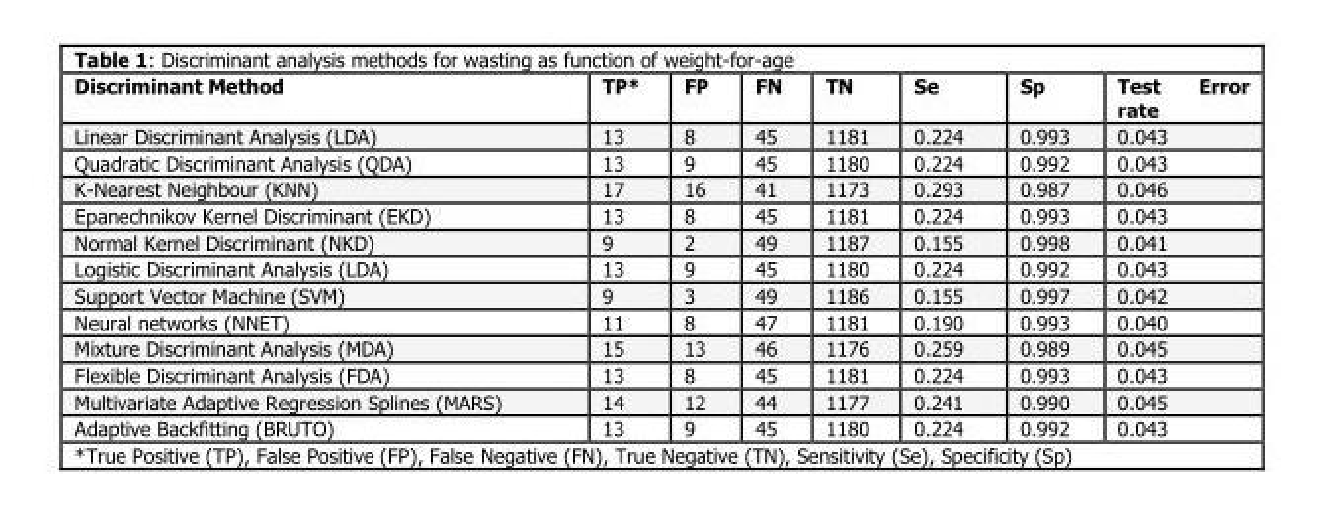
<table><thead><tr><td>Discriminant Method</td><td>TP*</td><td>FP</td><td>FN</td><td>TN</td><td>Se</td><td>Sp</td><td>Test Error rate</td></tr></thead><tbody><tr><td>Linear Discriminant Analysis (LDA)</td><td>13</td><td>8</td><td>45</td><td>1181</td><td>0.224</td><td>0.993</td><td>0.043</td></tr><tr><td>Quadratic Discriminant Analysis (QDA)</td><td>13</td><td>9</td><td>45</td><td>1180</td><td>0.224</td><td>0.992</td><td>0.043</td></tr><tr><td>K-Nearest Neighbour (KNN)</td><td>17</td><td>16</td><td>41</td><td>1173</td><td>0.293</td><td>0.987</td><td>0.046</td></tr><tr><td>Epanechnikov Kernel Discriminant (EKD)</td><td>13</td><td>8</td><td>45</td><td>1181</td><td>0.224</td><td>0.993</td><td>0.043</td></tr><tr><td>Normal Kernel Discriminant (NKD)</td><td>9</td><td>2</td><td>49</td><td>1187</td><td>0.155</td><td>0.998</td><td>0.041</td></tr><tr><td>Logistic Discriminant Analysis (LDA)</td><td>13</td><td>9</td><td>45</td><td>1180</td><td>0.224</td><td>0.992</td><td>0.043</td></tr><tr><td>Support Vector Machine (SVM)</td><td>9</td><td>3</td><td>49</td><td>1186</td><td>0.155</td><td>0.997</td><td>0.042</td></tr><tr><td>Neural networks (NNET)</td><td>11</td><td>8</td><td>47</td><td>1181</td><td>0.190</td><td>0.993</td><td>0.040</td></tr><tr><td>Mixture Discriminant Analysis (MDA)</td><td>15</td><td>13</td><td>46</td><td>1176</td><td>0.259</td><td>0.989</td><td>0.045</td></tr><tr><td>Flexible Discriminant Analysis (FDA)</td><td>13</td><td>8</td><td>45</td><td>1181</td><td>0.224</td><td>0.993</td><td>0.043</td></tr><tr><td>Multivariate Adaptive Regression Splines (MARS)</td><td>14</td><td>12</td><td>44</td><td>1177</td><td>0.241</td><td>0.990</td><td>0.045</td></tr><tr><td>Adaptive Backfitting (BRUTO)</td><td>13</td><td>9</td><td>45</td><td>1180</td><td>0.224</td><td>0.992</td><td>0.043</td></tr></tbody></table>